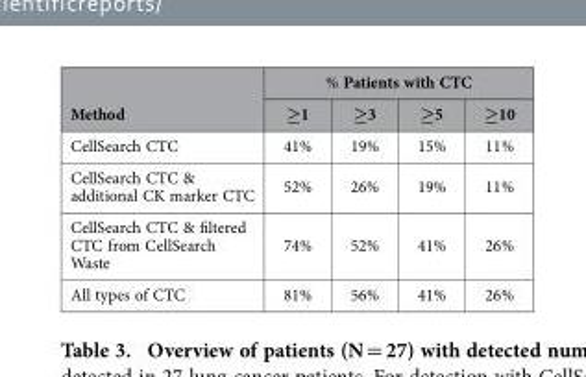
<table><thead><tr><td rowspan="2">Method</td><td colspan="4">% Patients with CTC</td></tr><tr><td>≥1</td><td>≥3</td><td>≥5</td><td>≥10</td></tr></thead><tbody><tr><td>CellSearch CTC</td><td>41%</td><td>19%</td><td>15%</td><td>11%</td></tr><tr><td>CellSearch CTC &amp; additional CK marker CTC</td><td>52%</td><td>26%</td><td>19%</td><td>11%</td></tr><tr><td>CellSearch CTC &amp; filtered CTC from CellSearch Waste</td><td>74%</td><td>52%</td><td>41%</td><td>26%</td></tr><tr><td>All types of CTC</td><td>81%</td><td>56%</td><td>41%</td><td>26%</td></tr></tbody></table>